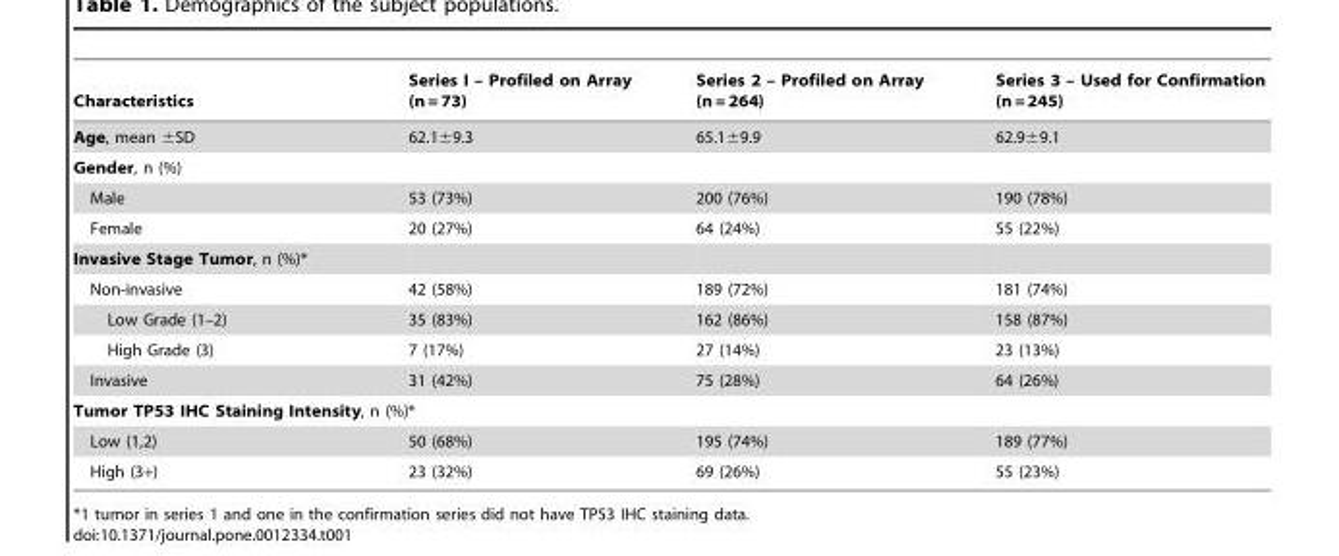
<table><thead><tr><td>Characteristics</td><td>Series I – Profiled on Array (n = 73)</td><td>Series 2 – Profiled on Array (n = 264)</td><td>Series 3 – Used for Confirmation (n = 245)</td></tr></thead><tbody><tr><td>Age, mean ±SD</td><td>62.1±9.3</td><td>65.1±9.9</td><td>62.9±9.1</td></tr><tr><td colspan="4">Gender, n (%)</td></tr><tr><td>Male</td><td>53 (73%)</td><td>200 (76%)</td><td>190 (78%)</td></tr><tr><td>Female</td><td>20 (27%)</td><td>64 (24%)</td><td>55 (22%)</td></tr><tr><td colspan="4">Invasive Stage Tumor, n (%)*</td></tr><tr><td>Non-invasive</td><td>42 (58%)</td><td>189 (72%)</td><td>181 (74%)</td></tr><tr><td>Low Grade (1–2)</td><td>35 (83%)</td><td>162 (86%)</td><td>158 (87%)</td></tr><tr><td>High Grade (3)</td><td>7 (17%)</td><td>27 (14%)</td><td>23 (13%)</td></tr><tr><td>Invasive</td><td>31 (42%)</td><td>75 (28%)</td><td>64 (26%)</td></tr><tr><td colspan="4">Tumor TP53 IHC Staining Intensity, n (%)*</td></tr><tr><td>Low (1,2)</td><td>50 (68%)</td><td>195 (74%)</td><td>189 (77%)</td></tr><tr><td>High (3+)</td><td>23 (32%)</td><td>69 (26%)</td><td>55 (23%)</td></tr></tbody></table>